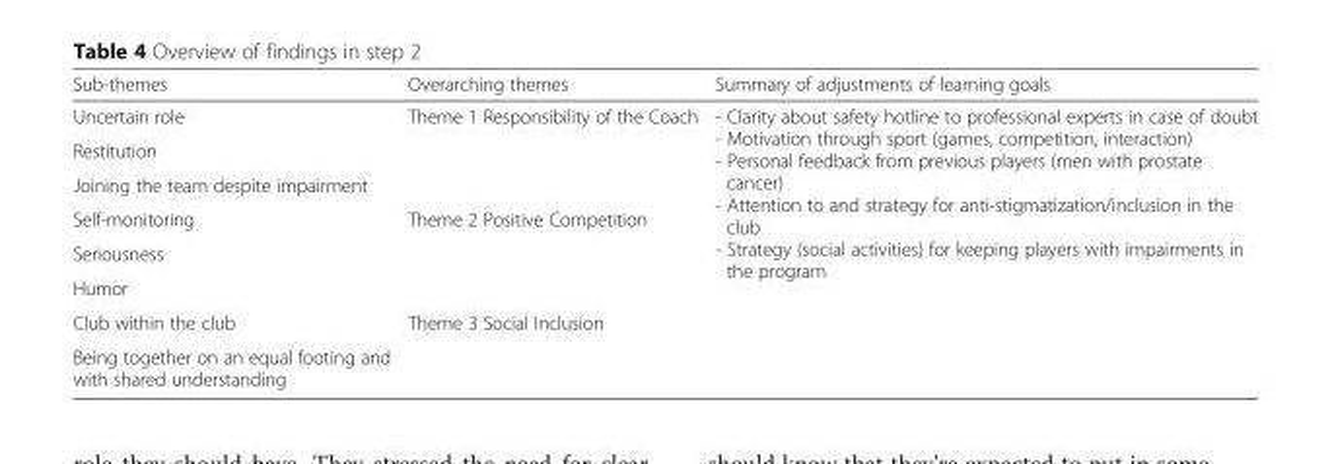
<table><thead><tr><td>Sub-themes</td><td>Overarching themes</td><td>Summary of adjustments of learning goals</td></tr></thead><tbody><tr><td>Uncertain role</td><td rowspan="3">Theme 1 Responsibility of the Coach</td><td rowspan="8">- Clarity about safety hotline to professional experts in case of doubt - Motivation through sport (games, competition, interaction) - Personal feedback from previous players (men with prostate cancer) - Attention to and strategy for anti-stigmatization/inclusion in the club - Strategy (social activities) for keeping players with impairments in the program</td></tr><tr><td>Restitution</td></tr><tr><td>Joining the team despite impairment</td></tr><tr><td>Self-monitoring</td><td rowspan="3">Theme 2 Positive Competition</td></tr><tr><td>Seriousness</td></tr><tr><td>Humor</td></tr><tr><td>Club within the club</td><td rowspan="2">Theme 3 Social Inclusion</td></tr><tr><td>Being together on an equal footing and with shared understanding</td></tr></tbody></table>